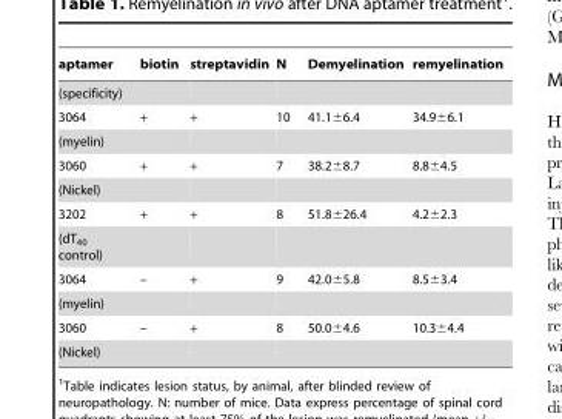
<table><thead><tr><td>aptamer</td><td>biotin</td><td>streptavidin</td><td>N</td><td>Demyelination</td><td>remyelination</td></tr></thead><tbody><tr><td colspan="6">(specificity)</td></tr><tr><td>3064</td><td>+</td><td>+</td><td>10</td><td>41.1±6.4</td><td>34.9±6.1</td></tr><tr><td colspan="6">(myelin)</td></tr><tr><td>3060</td><td>+</td><td>+</td><td>7</td><td>38.2±8.7</td><td>8.8±4.5</td></tr><tr><td colspan="6">(Nickel)</td></tr><tr><td>3202</td><td>+</td><td>+</td><td>8</td><td>51.8±26.4</td><td>4.2±2.3</td></tr><tr><td colspan="6">(dT<sub>40</sub> control)</td></tr><tr><td>3064</td><td>–</td><td>+</td><td>9</td><td>42.0±5.8</td><td>8.5±3.4</td></tr><tr><td colspan="6">(myelin)</td></tr><tr><td>3060</td><td>–</td><td>+</td><td>8</td><td>50.0±4.6</td><td>10.3±4.4</td></tr><tr><td>(Nickel)</td><td></td><td></td><td></td><td></td><td></td></tr></tbody></table>